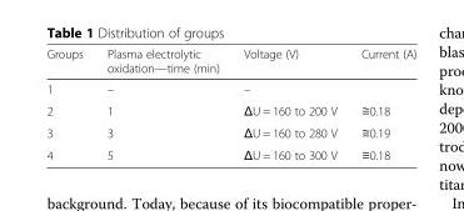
<table><thead><tr><td>Groups</td><td>Plasma electrolytic oxidation—time (min)</td><td>Voltage (V)</td><td>Current (A)</td></tr></thead><tbody><tr><td>1</td><td>–</td><td>–</td><td></td></tr><tr><td>2</td><td>1</td><td>ΔU = 160 to 200 V</td><td>≅0.18</td></tr><tr><td>3</td><td>3</td><td>ΔU = 160 to 280 V</td><td>≅0.19</td></tr><tr><td>4</td><td>5</td><td>ΔU = 160 to 300 V</td><td>≅0.18</td></tr></tbody></table>